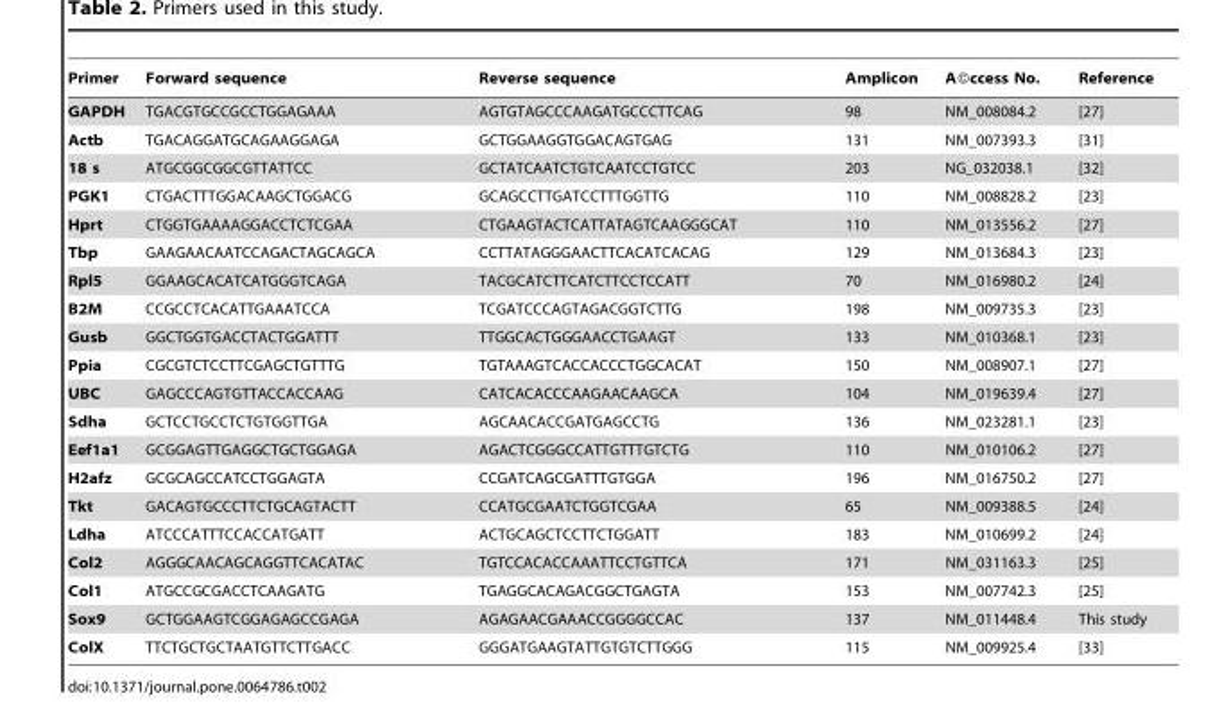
<table><thead><tr><td>Primer</td><td>Forward sequence</td><td>Reverse sequence</td><td>Amplicon</td><td>A©ccess No.</td><td>Reference</td></tr></thead><tbody><tr><td>GAPDH</td><td>TGACGTGCCGCCTGGAGAAA</td><td>AGTGTAGCCCAAGATGCCCTTCAG</td><td>98</td><td>NM_008084.2</td><td>[27]</td></tr><tr><td>Actb</td><td>TGACAGGATGCAGAAGGAGA</td><td>GCTGGAAGGTGGACAGTGAG</td><td>131</td><td>NM_007393.3</td><td>[31]</td></tr><tr><td>18 s</td><td>ATGCGGCGGCGTTATTCC</td><td>GCTATCAATCTGTCAATCCTGTCC</td><td>203</td><td>NG_032038.1</td><td>[32]</td></tr><tr><td>PGK1</td><td>CTGACTTTGGACAAGCTGGACG</td><td>GCAGCCTTGATCCTTTGGTTG</td><td>110</td><td>NM_008828.2</td><td>[23]</td></tr><tr><td>Hprt</td><td>CTGGTGAAAAGGACCTCTCGAA</td><td>CTGAAGTACTCATTATAGTCAAGGGCAT</td><td>110</td><td>NM_013556.2</td><td>[27]</td></tr><tr><td>Tbp</td><td>GAAGAACAATCCAGACTAGCAGCA</td><td>CCTTATAGGGAACTTCACATCACAG</td><td>129</td><td>NM_013684.3</td><td>[23]</td></tr><tr><td>Rpl5</td><td>GGAAGCACATCATGGGTCAGA</td><td>TACGCATCTTCATCTTCCTCCATT</td><td>70</td><td>NM_016980.2</td><td>[24]</td></tr><tr><td>B2M</td><td>CCGCCTCACATTGAAATCCA</td><td>TCGATCCCAGTAGACGGTCTTG</td><td>198</td><td>NM_009735.3</td><td>[23]</td></tr><tr><td>Gusb</td><td>GGCTGGTGACCTACTGGATTT</td><td>TTGGCACTGGGAACCTGAAGT</td><td>133</td><td>NM_010368.1</td><td>[23]</td></tr><tr><td>Ppia</td><td>CGCGTCTCCTTCGAGCTGTTTG</td><td>TGTAAAGTCACCACCCTGGCACAT</td><td>150</td><td>NM_008907.1</td><td>[27]</td></tr><tr><td>UBC</td><td>GAGCCCAGTGTTACCACCAAG</td><td>CATCACACCCAAGAACAAGCA</td><td>104</td><td>NM_019639.4</td><td>[27]</td></tr><tr><td>Sdha</td><td>GCTCCTGCCTCTGTGGTTGA</td><td>AGCAACACCGATGAGCCTG</td><td>136</td><td>NM_023281.1</td><td>[23]</td></tr><tr><td>Eef1a1</td><td>GCGGAGTTGAGGCTGCTGGAGA</td><td>AGACTCGGGCCATTGTTTGTCTG</td><td>110</td><td>NM_010106.2</td><td>[27]</td></tr><tr><td>H2afz</td><td>GCGCAGCCATCCTGGAGTA</td><td>CCGATCAGCGATTTGTGGA</td><td>196</td><td>NM_016750.2</td><td>[27]</td></tr><tr><td>Tkt</td><td>GACAGTGCCCTTCTGCAGTACTT</td><td>CCATGCGAATCTGGTCGAA</td><td>65</td><td>NM_009388.5</td><td>[24]</td></tr><tr><td>Ldha</td><td>ATCCCATTTCCACCATGATT</td><td>ACTGCAGCTCCTTCTGGATT</td><td>183</td><td>NM_010699.2</td><td>[24]</td></tr><tr><td>Col2</td><td>AGGGCAACAGCAGGTTCACATAC</td><td>TGTCCACACCAAATTCCTGTTCA</td><td>171</td><td>NM_031163.3</td><td>[25]</td></tr><tr><td>Col1</td><td>ATGCCGCGACCTCAAGATG</td><td>TGAGGCACAGACGGCTGAGTA</td><td>153</td><td>NM_007742.3</td><td>[25]</td></tr><tr><td>Sox9</td><td>GCTGGAAGTCGGAGAGCCGAGA</td><td>AGAGAACGAAACCGGGGCCAC</td><td>137</td><td>NM_011448.4</td><td>This study</td></tr><tr><td>ColX</td><td>TTCTGCTGCTAATGTTCTTGACC</td><td>GGGATGAAGTATTGTGTCTTGGG</td><td>115</td><td>NM_009925.4</td><td>[33]</td></tr></tbody></table>